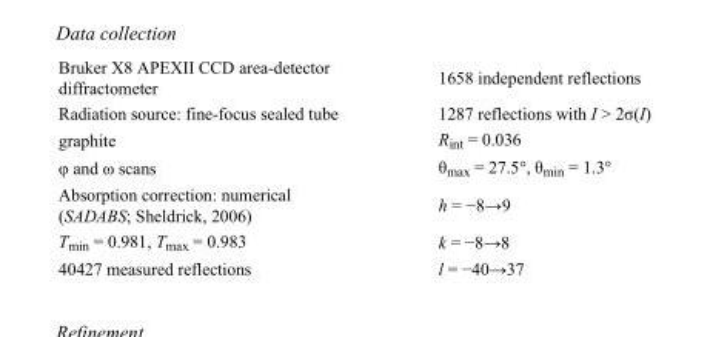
<table><tbody><tr><td>Bruker X8 APEXII CCD area-detector diffractometer</td><td>1658 independent reflections</td></tr><tr><td>Radiation source: fine-focus sealed tube</td><td>1287 reflections with I &gt; 2σ(I)</td></tr><tr><td>graphite</td><td>R<sub>int</sub> = 0.036</td></tr><tr><td>φ and ω scans</td><td>θ<sub>max</sub> = 27.5°, θ<sub>min</sub> = 1.3°</td></tr><tr><td>Absorption correction: numerical (SADABS; Sheldrick, 2006)</td><td>h = −8→9</td></tr><tr><td>T<sub>min</sub> = 0.981, T<sub>max</sub> = 0.983</td><td>k = −8→8</td></tr><tr><td>40427 measured reflections</td><td>l = −40→37</td></tr></tbody></table>